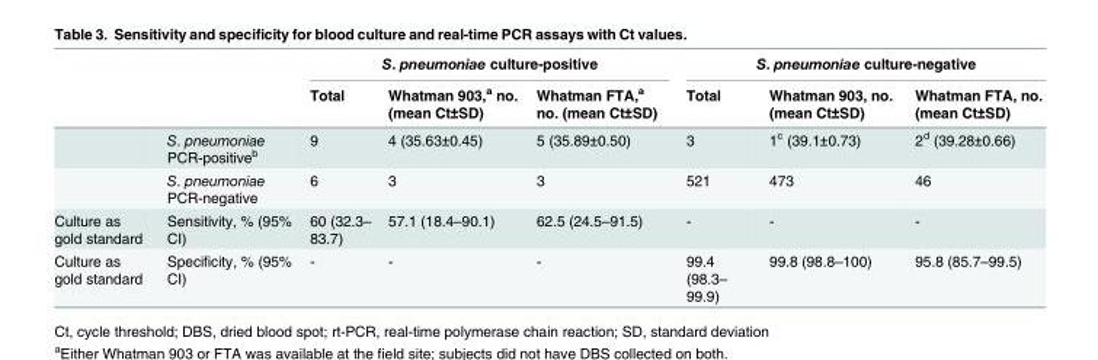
<table><thead><tr><td rowspan="2"></td><td rowspan="2"></td><td colspan="3">S. pneumoniae culture-positive</td><td colspan="3">S. pneumoniae culture-negative</td></tr><tr><td>Total</td><td>Whatman 903,<sup>a</sup> no. (mean Ct±SD)</td><td>Whatman FTA,<sup>a</sup> no. (mean Ct±SD)</td><td>Total</td><td>Whatman 903, no. (mean Ct±SD)</td><td>Whatman FTA, no. (mean Ct±SD)</td></tr></thead><tbody><tr><td></td><td>S. pneumoniae PCR-positive<sup>b</sup></td><td>9</td><td>4 (35.63±0.45)</td><td>5 (35.89±0.50)</td><td>3</td><td>1<sup>c</sup> (39.1±0.73)</td><td>2<sup>d</sup> (39.28±0.66)</td></tr><tr><td></td><td>S. pneumoniae PCR-negative</td><td>6</td><td>3</td><td>3</td><td>521</td><td>473</td><td>46</td></tr><tr><td>Culture as gold standard</td><td>Sensitivity, % (95% CI)</td><td>60 (32.3– 83.7)</td><td>57.1 (18.4–90.1)</td><td>62.5 (24.5–91.5)</td><td>-</td><td>-</td><td>-</td></tr><tr><td>Culture as gold standard</td><td>Specificity, % (95% CI)</td><td>-</td><td>-</td><td>-</td><td>99.4 (98.3– 99.9)</td><td>99.8 (98.8–100)</td><td>95.8 (85.7–99.5)</td></tr></tbody></table>